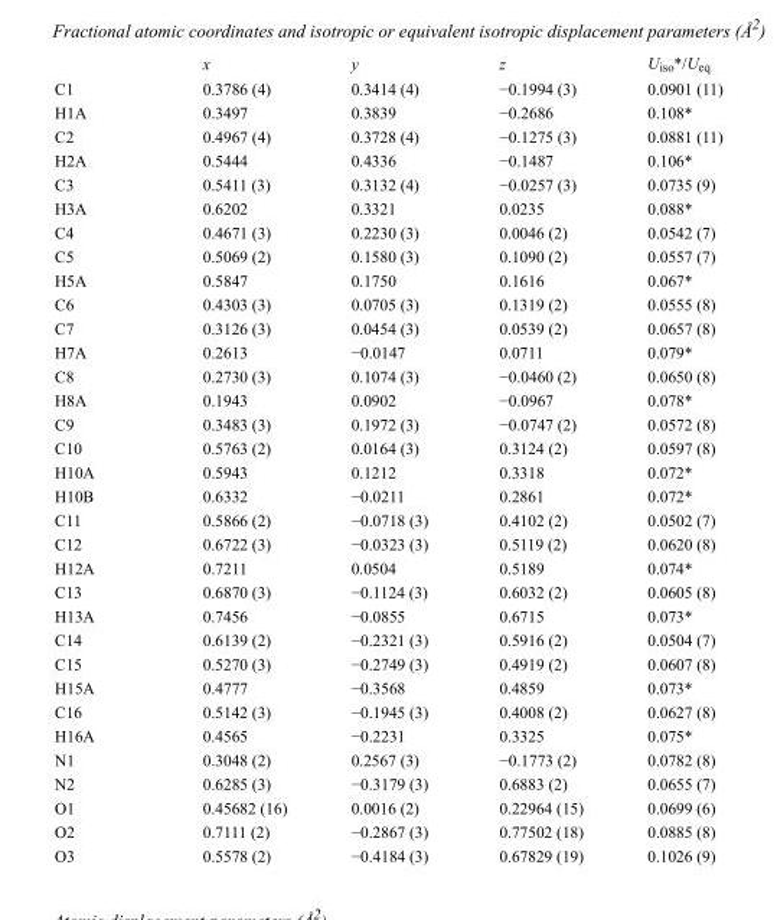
<table><thead><tr><td></td><td>x</td><td>y</td><td>z</td><td>U<sub>iso</sub>*/U<sub>eq</sub></td></tr></thead><tbody><tr><td>C1</td><td>0.3786 (4)</td><td>0.3414 (4)</td><td>−0.1994 (3)</td><td>0.0901 (11)</td></tr><tr><td>H1A</td><td>0.3497</td><td>0.3839</td><td>−0.2686</td><td>0.108*</td></tr><tr><td>C2</td><td>0.4967 (4)</td><td>0.3728 (4)</td><td>−0.1275 (3)</td><td>0.0881 (11)</td></tr><tr><td>H2A</td><td>0.5444</td><td>0.4336</td><td>−0.1487</td><td>0.106*</td></tr><tr><td>C3</td><td>0.5411 (3)</td><td>0.3132 (4)</td><td>−0.0257 (3)</td><td>0.0735 (9)</td></tr><tr><td>H3A</td><td>0.6202</td><td>0.3321</td><td>0.0235</td><td>0.088*</td></tr><tr><td>C4</td><td>0.4671 (3)</td><td>0.2230 (3)</td><td>0.0046 (2)</td><td>0.0542 (7)</td></tr><tr><td>C5</td><td>0.5069 (2)</td><td>0.1580 (3)</td><td>0.1090 (2)</td><td>0.0557 (7)</td></tr><tr><td>H5A</td><td>0.5847</td><td>0.1750</td><td>0.1616</td><td>0.067*</td></tr><tr><td>C6</td><td>0.4303 (3)</td><td>0.0705 (3)</td><td>0.1319 (2)</td><td>0.0555 (8)</td></tr><tr><td>C7</td><td>0.3126 (3)</td><td>0.0454 (3)</td><td>0.0539 (2)</td><td>0.0657 (8)</td></tr><tr><td>H7A</td><td>0.2613</td><td>−0.0147</td><td>0.0711</td><td>0.079*</td></tr><tr><td>C8</td><td>0.2730 (3)</td><td>0.1074 (3)</td><td>−0.0460 (2)</td><td>0.0650 (8)</td></tr><tr><td>H8A</td><td>0.1943</td><td>0.0902</td><td>−0.0967</td><td>0.078*</td></tr><tr><td>C9</td><td>0.3483 (3)</td><td>0.1972 (3)</td><td>−0.0747 (2)</td><td>0.0572 (8)</td></tr><tr><td>C10</td><td>0.5763 (2)</td><td>0.0164 (3)</td><td>0.3124 (2)</td><td>0.0597 (8)</td></tr><tr><td>H10A</td><td>0.5943</td><td>0.1212</td><td>0.3318</td><td>0.072*</td></tr><tr><td>H10B</td><td>0.6332</td><td>−0.0211</td><td>0.2861</td><td>0.072*</td></tr><tr><td>C11</td><td>0.5866 (2)</td><td>−0.0718 (3)</td><td>0.4102 (2)</td><td>0.0502 (7)</td></tr><tr><td>C12</td><td>0.6722 (3)</td><td>−0.0323 (3)</td><td>0.5119 (2)</td><td>0.0620 (8)</td></tr><tr><td>H12A</td><td>0.7211</td><td>0.0504</td><td>0.5189</td><td>0.074*</td></tr><tr><td>C13</td><td>0.6870 (3)</td><td>−0.1124 (3)</td><td>0.6032 (2)</td><td>0.0605 (8)</td></tr><tr><td>H13A</td><td>0.7456</td><td>−0.0855</td><td>0.6715</td><td>0.073*</td></tr><tr><td>C14</td><td>0.6139 (2)</td><td>−0.2321 (3)</td><td>0.5916 (2)</td><td>0.0504 (7)</td></tr><tr><td>C15</td><td>0.5270 (3)</td><td>−0.2749 (3)</td><td>0.4919 (2)</td><td>0.0607 (8)</td></tr><tr><td>H15A</td><td>0.4777</td><td>−0.3568</td><td>0.4859</td><td>0.073*</td></tr><tr><td>C16</td><td>0.5142 (3)</td><td>−0.1945 (3)</td><td>0.4008 (2)</td><td>0.0627 (8)</td></tr><tr><td>H16A</td><td>0.4565</td><td>−0.2231</td><td>0.3325</td><td>0.075*</td></tr><tr><td>N1</td><td>0.3048 (2)</td><td>0.2567 (3)</td><td>−0.1773 (2)</td><td>0.0782 (8)</td></tr><tr><td>N2</td><td>0.6285 (3)</td><td>−0.3179 (3)</td><td>0.6883 (2)</td><td>0.0655 (7)</td></tr><tr><td>O1</td><td>0.45682 (16)</td><td>0.0016 (2)</td><td>0.22964 (15)</td><td>0.0699 (6)</td></tr><tr><td>O2</td><td>0.7111 (2)</td><td>−0.2867 (3)</td><td>0.77502 (18)</td><td>0.0885 (8)</td></tr><tr><td>O3</td><td>0.5578 (2)</td><td>−0.4184 (3)</td><td>0.67829 (19)</td><td>0.1026 (9)</td></tr></tbody></table>